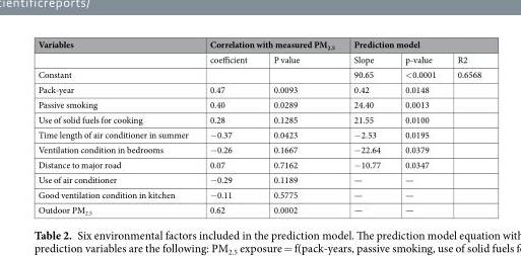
<table><thead><tr><td rowspan="2">Variables</td><td colspan="2">Correlation with measured PM<sub>2.5</sub></td><td colspan="3">Prediction model</td></tr><tr><td>coefficient</td><td>P value</td><td>Slope</td><td>p-value</td><td>R2</td></tr></thead><tbody><tr><td>Constant</td><td></td><td></td><td>90.65</td><td>&lt;0.0001</td><td>0.6568</td></tr><tr><td>Pack-year</td><td>0.47</td><td>0.0093</td><td>0.42</td><td>0.0148</td><td></td></tr><tr><td>Passive smoking</td><td>0.40</td><td>0.0289</td><td>24.40</td><td>0.0013</td><td></td></tr><tr><td>Use of solid fuels for cooking</td><td>0.28</td><td>0.1285</td><td>21.55</td><td>0.0100</td><td></td></tr><tr><td>Time length of air conditioner in summer</td><td>−0.37</td><td>0.0423</td><td>−2.53</td><td>0.0195</td><td></td></tr><tr><td>Ventilation condition in bedrooms</td><td>−0.26</td><td>0.1667</td><td>−22.64</td><td>0.0379</td><td></td></tr><tr><td>Distance to major road</td><td>0.07</td><td>0.7162</td><td>−10.77</td><td>0.0347</td><td></td></tr><tr><td>Use of air conditioner</td><td>−0.29</td><td>0.1189</td><td>—</td><td>—</td><td></td></tr><tr><td>Good ventilation condition in kitchen</td><td>−0.11</td><td>0.5775</td><td>—</td><td>—</td><td></td></tr><tr><td>Outdoor PM<sub>2.5</sub></td><td>0.62</td><td>0.0002</td><td>—</td><td>—</td><td></td></tr></tbody></table>